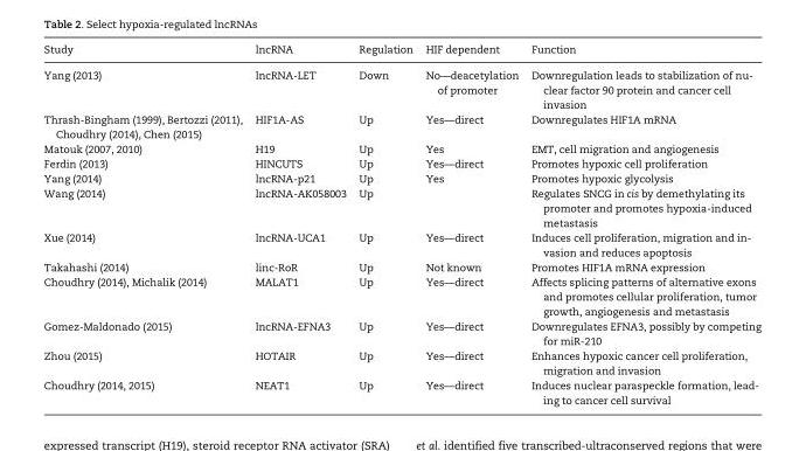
<table><thead><tr><td>Study</td><td>lncRNA</td><td>Regulation</td><td>HIF dependent</td><td>Function</td></tr></thead><tbody><tr><td>Yang (2013)</td><td>lncRNA-LET</td><td>Down</td><td>No—deacetylation of promoter</td><td>Downregulation leads to stabilization of nu- clear factor 90 protein and cancer cell invasion</td></tr><tr><td>Thrash-Bingham (1999), Bertozzi (2011), Choudhry (2014), Chen (2015)</td><td>HIF1A-AS</td><td>Up</td><td>Yes—direct</td><td>Downregulates HIF1A mRNA</td></tr><tr><td>Matouk (2007, 2010)</td><td>H19</td><td>Up</td><td>Yes</td><td>EMT, cell migration and angiogenesis</td></tr><tr><td>Ferdin (2013)</td><td>HINCUTS</td><td>Up</td><td>Yes—direct</td><td>Promotes hypoxic cell proliferation</td></tr><tr><td>Yang (2014)</td><td>lncRNA-p21</td><td>Up</td><td>Yes</td><td>Promotes hypoxic glycolysis</td></tr><tr><td>Wang (2014)</td><td>lncRNA-AK058003</td><td>Up</td><td></td><td>Regulates SNCG in cis by demethylating its promoter and promotes hypoxia-induced metastasis</td></tr><tr><td>Xue (2014)</td><td>lncRNA-UCA1</td><td>Up</td><td>Yes—direct</td><td>Induces cell proliferation, migration and in- vasion and reduces apoptosis</td></tr><tr><td>Takahashi (2014)</td><td>linc-RoR</td><td>Up</td><td>Not known</td><td>Promotes HIF1A mRNA expression</td></tr><tr><td>Choudhry (2014), Michalik (2014)</td><td>MALAT1</td><td>Up</td><td>Yes—direct</td><td>Affects splicing patterns of alternative exons and promotes cellular proliferation, tumor growth, angiogenesis and metastasis</td></tr><tr><td>Gomez-Maldonado (2015)</td><td>lncRNA-EFNA3</td><td>Up</td><td>Yes—direct</td><td>Downregulates EFNA3, possibly by competing for miR-210</td></tr><tr><td>Zhou (2015)</td><td>HOTAIR</td><td>Up</td><td>Yes—direct</td><td>Enhances hypoxic cancer cell proliferation, migration and invasion</td></tr><tr><td>Choudhry (2014, 2015)</td><td>NEAT1</td><td>Up</td><td>Yes—direct</td><td>Induces nuclear paraspeckle formation, lead- ing to cancer cell survival</td></tr></tbody></table>